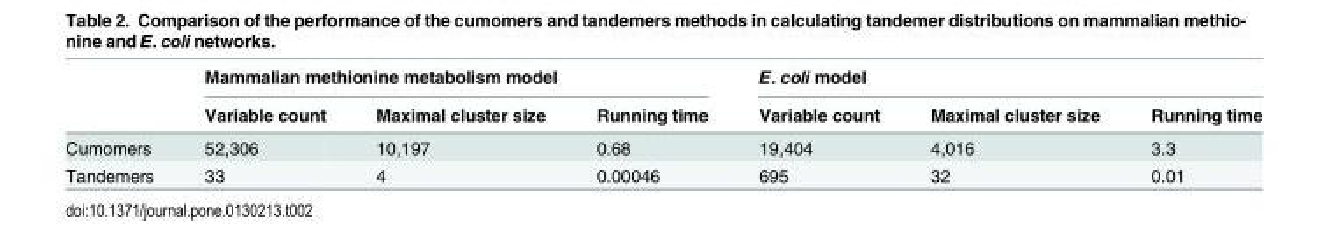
<table><thead><tr><td rowspan="2"></td><td colspan="3">Mammalian methionine metabolism model</td><td colspan="3">E. coli model</td></tr><tr><td>Variable count</td><td>Maximal cluster size</td><td>Running time</td><td>Variable count</td><td>Maximal cluster size</td><td>Running time</td></tr></thead><tbody><tr><td>Cumomers</td><td>52,306</td><td>10,197</td><td>0.68</td><td>19,404</td><td>4,016</td><td>3.3</td></tr><tr><td>Tandemers</td><td>33</td><td>4</td><td>0.00046</td><td>695</td><td>32</td><td>0.01</td></tr></tbody></table>